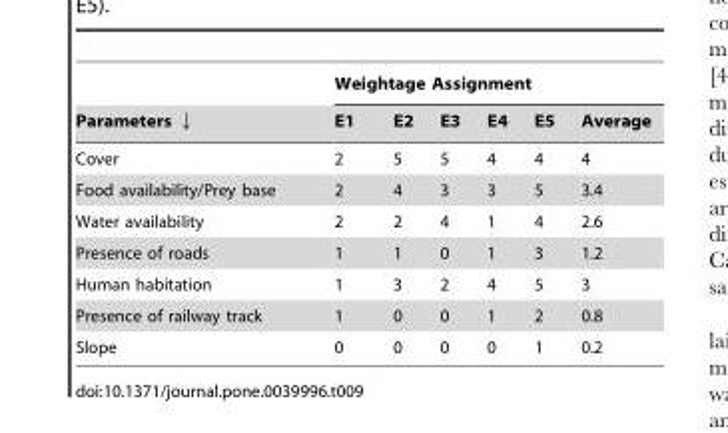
<table><thead><tr><td rowspan="2">Parameters ↓</td><td colspan="6">Weightage Assignment</td></tr><tr><td>E1</td><td>E2</td><td>E3</td><td>E4</td><td>E5</td><td>Average</td></tr></thead><tbody><tr><td>Cover</td><td>2</td><td>5</td><td>5</td><td>4</td><td>4</td><td>4</td></tr><tr><td>Food availability/Prey base</td><td>2</td><td>4</td><td>3</td><td>3</td><td>5</td><td>3.4</td></tr><tr><td>Water availability</td><td>2</td><td>2</td><td>4</td><td>1</td><td>4</td><td>2.6</td></tr><tr><td>Presence of roads</td><td>1</td><td>1</td><td>0</td><td>1</td><td>3</td><td>1.2</td></tr><tr><td>Human habitation</td><td>1</td><td>3</td><td>2</td><td>4</td><td>5</td><td>3</td></tr><tr><td>Presence of railway track</td><td>1</td><td>0</td><td>0</td><td>1</td><td>2</td><td>0.8</td></tr><tr><td>Slope</td><td>0</td><td>0</td><td>0</td><td>0</td><td>1</td><td>0.2</td></tr></tbody></table>